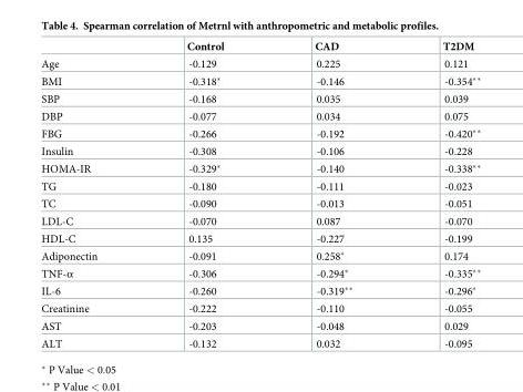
<table><thead><tr><td></td><td>Control</td><td>CAD</td><td>T2DM</td></tr></thead><tbody><tr><td>Age</td><td>-0.129</td><td>0.225</td><td>0.121</td></tr><tr><td>BMI</td><td>-0.318*</td><td>-0.146</td><td>-0.354**</td></tr><tr><td>SBP</td><td>-0.168</td><td>0.035</td><td>0.039</td></tr><tr><td>DBP</td><td>-0.077</td><td>0.034</td><td>0.075</td></tr><tr><td>FBG</td><td>-0.266</td><td>-0.192</td><td>-0.420**</td></tr><tr><td>Insulin</td><td>-0.308</td><td>-0.106</td><td>-0.228</td></tr><tr><td>HOMA-IR</td><td>-0.329*</td><td>-0.140</td><td>-0.338**</td></tr><tr><td>TG</td><td>-0.180</td><td>-0.111</td><td>-0.023</td></tr><tr><td>TC</td><td>-0.090</td><td>-0.013</td><td>-0.051</td></tr><tr><td>LDL-C</td><td>-0.070</td><td>0.087</td><td>-0.070</td></tr><tr><td>HDL-C</td><td>0.135</td><td>-0.227</td><td>-0.199</td></tr><tr><td>Adiponectin</td><td>-0.091</td><td>0.258*</td><td>0.174</td></tr><tr><td>TNF-α</td><td>-0.306</td><td>-0.294*</td><td>-0.335**</td></tr><tr><td>IL-6</td><td>-0.260</td><td>-0.319**</td><td>-0.296*</td></tr><tr><td>Creatinine</td><td>-0.222</td><td>-0.110</td><td>-0.055</td></tr><tr><td>AST</td><td>-0.203</td><td>-0.048</td><td>0.029</td></tr><tr><td>ALT</td><td>-0.132</td><td>0.032</td><td>-0.095</td></tr></tbody></table>